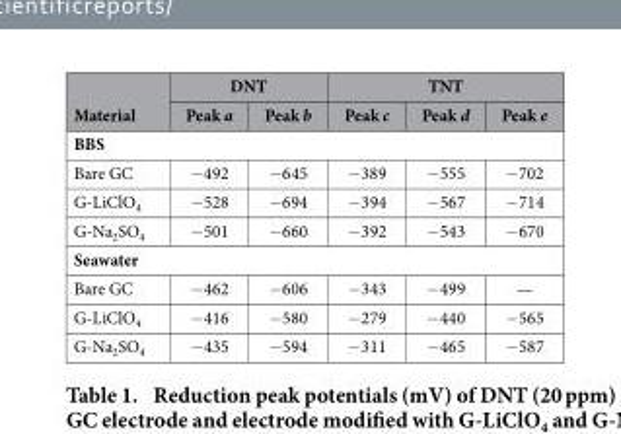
<table><thead><tr><td rowspan="2">Material</td><td colspan="2">DNT</td><td colspan="3">TNT</td></tr><tr><td>Peak a</td><td>Peak b</td><td>Peak c</td><td>Peak d</td><td>Peak e</td></tr></thead><tbody><tr><td colspan="6">BBS</td></tr><tr><td>Bare GC</td><td>− 492</td><td>− 645</td><td>− 389</td><td>− 555</td><td>− 702</td></tr><tr><td>G-LiClO<sub>4</sub></td><td>− 528</td><td>− 694</td><td>− 394</td><td>− 567</td><td>− 714</td></tr><tr><td>G-Na<sub>2</sub>SO<sub>4</sub></td><td>− 501</td><td>− 660</td><td>− 392</td><td>− 543</td><td>− 670</td></tr><tr><td colspan="6">Seawater</td></tr><tr><td>Bare GC</td><td>− 462</td><td>− 606</td><td>− 343</td><td>− 499</td><td>—</td></tr><tr><td>G-LiClO<sub>4</sub></td><td>− 416</td><td>− 580</td><td>− 279</td><td>− 440</td><td>− 565</td></tr><tr><td>G-Na<sub>2</sub>SO<sub>4</sub></td><td>− 435</td><td>− 594</td><td>− 311</td><td>− 465</td><td>− 587</td></tr></tbody></table>